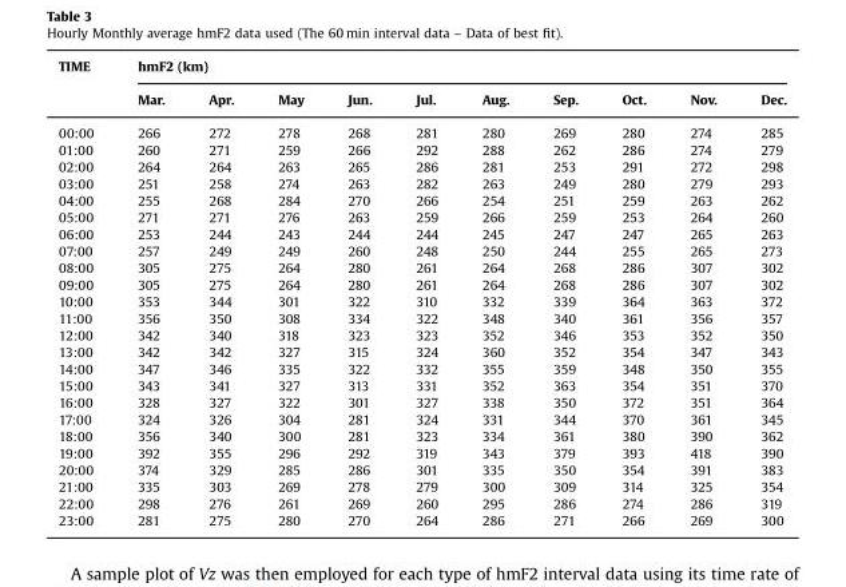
<table><thead><tr><td rowspan="2">TIME</td><td colspan="10">hmF2 (km)</td></tr><tr><td>Mar.</td><td>Apr.</td><td>May</td><td>Jun.</td><td>Jul.</td><td>Aug.</td><td>Sep.</td><td>Oct.</td><td>Nov.</td><td>Dec.</td></tr></thead><tbody><tr><td>00:00</td><td>266</td><td>272</td><td>278</td><td>268</td><td>281</td><td>280</td><td>269</td><td>280</td><td>274</td><td>285</td></tr><tr><td>01:00</td><td>260</td><td>271</td><td>259</td><td>266</td><td>292</td><td>288</td><td>262</td><td>286</td><td>274</td><td>279</td></tr><tr><td>02:00</td><td>264</td><td>264</td><td>263</td><td>265</td><td>286</td><td>281</td><td>253</td><td>291</td><td>272</td><td>298</td></tr><tr><td>03:00</td><td>251</td><td>258</td><td>274</td><td>263</td><td>282</td><td>263</td><td>249</td><td>280</td><td>279</td><td>293</td></tr><tr><td>04:00</td><td>255</td><td>268</td><td>284</td><td>270</td><td>266</td><td>254</td><td>251</td><td>259</td><td>263</td><td>262</td></tr><tr><td>05:00</td><td>271</td><td>271</td><td>276</td><td>263</td><td>259</td><td>266</td><td>259</td><td>253</td><td>264</td><td>260</td></tr><tr><td>06:00</td><td>253</td><td>244</td><td>243</td><td>244</td><td>244</td><td>245</td><td>247</td><td>247</td><td>265</td><td>263</td></tr><tr><td>07:00</td><td>257</td><td>249</td><td>249</td><td>260</td><td>248</td><td>250</td><td>244</td><td>255</td><td>265</td><td>273</td></tr><tr><td>08:00</td><td>305</td><td>275</td><td>264</td><td>280</td><td>261</td><td>264</td><td>268</td><td>286</td><td>307</td><td>302</td></tr><tr><td>09:00</td><td>305</td><td>275</td><td>264</td><td>280</td><td>261</td><td>264</td><td>268</td><td>286</td><td>307</td><td>302</td></tr><tr><td>10:00</td><td>353</td><td>344</td><td>301</td><td>322</td><td>310</td><td>332</td><td>339</td><td>364</td><td>363</td><td>372</td></tr><tr><td>11:00</td><td>356</td><td>350</td><td>308</td><td>334</td><td>322</td><td>348</td><td>340</td><td>361</td><td>356</td><td>357</td></tr><tr><td>12:00</td><td>342</td><td>340</td><td>318</td><td>323</td><td>323</td><td>352</td><td>346</td><td>353</td><td>352</td><td>350</td></tr><tr><td>13:00</td><td>342</td><td>342</td><td>327</td><td>315</td><td>324</td><td>360</td><td>352</td><td>354</td><td>347</td><td>343</td></tr><tr><td>14:00</td><td>347</td><td>346</td><td>335</td><td>322</td><td>332</td><td>355</td><td>359</td><td>348</td><td>350</td><td>355</td></tr><tr><td>15:00</td><td>343</td><td>341</td><td>327</td><td>313</td><td>331</td><td>352</td><td>363</td><td>354</td><td>351</td><td>370</td></tr><tr><td>16:00</td><td>328</td><td>327</td><td>322</td><td>301</td><td>327</td><td>338</td><td>350</td><td>372</td><td>351</td><td>364</td></tr><tr><td>17:00</td><td>324</td><td>326</td><td>304</td><td>281</td><td>324</td><td>331</td><td>344</td><td>370</td><td>361</td><td>345</td></tr><tr><td>18:00</td><td>356</td><td>340</td><td>300</td><td>281</td><td>323</td><td>334</td><td>361</td><td>380</td><td>390</td><td>362</td></tr><tr><td>19:00</td><td>392</td><td>355</td><td>296</td><td>292</td><td>319</td><td>343</td><td>379</td><td>393</td><td>418</td><td>390</td></tr><tr><td>20:00</td><td>374</td><td>329</td><td>285</td><td>286</td><td>301</td><td>335</td><td>350</td><td>354</td><td>391</td><td>383</td></tr><tr><td>21:00</td><td>335</td><td>303</td><td>269</td><td>278</td><td>279</td><td>300</td><td>309</td><td>314</td><td>325</td><td>354</td></tr><tr><td>22:00</td><td>298</td><td>276</td><td>261</td><td>269</td><td>260</td><td>295</td><td>286</td><td>274</td><td>286</td><td>319</td></tr><tr><td>23:00</td><td>281</td><td>275</td><td>280</td><td>270</td><td>264</td><td>286</td><td>271</td><td>266</td><td>269</td><td>300</td></tr></tbody></table>